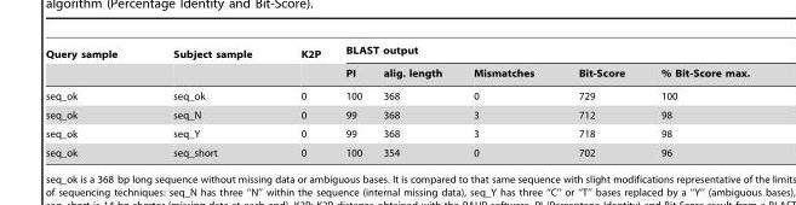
<table><thead><tr><td rowspan="2">Query sample</td><td rowspan="2">Subject sample</td><td rowspan="2">K2P</td><td colspan="5">BLAST output</td></tr><tr><td>PI</td><td>alig. length</td><td>Mismatches</td><td>Bit-Score</td><td>% Bit-Score max.</td></tr></thead><tbody><tr><td>seq_ok</td><td>seq_ok</td><td>0</td><td>100</td><td>368</td><td>0</td><td>729</td><td>100</td></tr><tr><td>seq_ok</td><td>seq_N</td><td>0</td><td>99</td><td>368</td><td>3</td><td>712</td><td>98</td></tr><tr><td>seq_ok</td><td>seq_Y</td><td>0</td><td>99</td><td>368</td><td>3</td><td>718</td><td>98</td></tr><tr><td>seq_ok</td><td>seq_short</td><td>0</td><td>100</td><td>354</td><td>0</td><td>702</td><td>96</td></tr></tbody></table>